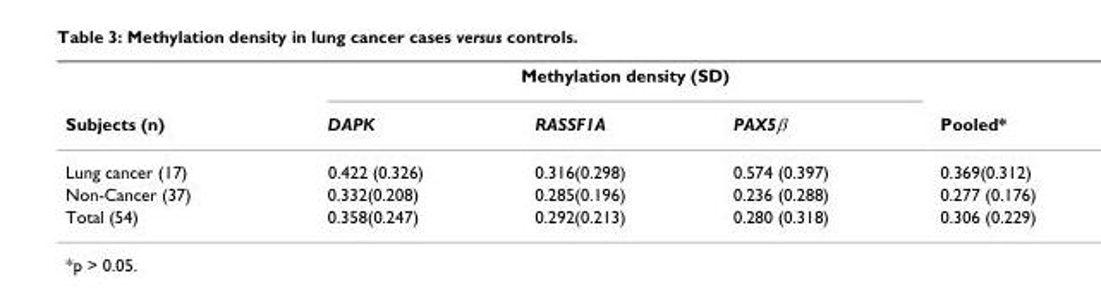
<table><thead><tr><td rowspan="2">Subjects (n)</td><td colspan="3">Methylation density (SD)</td><td rowspan="2">Pooled*</td></tr><tr><td>DAPK</td><td>RASSF1A</td><td>PAX5β</td></tr></thead><tbody><tr><td>Lung cancer (17)</td><td>0.422 (0.326)</td><td>0.316(0.298)</td><td>0.574 (0.397)</td><td>0.369(0.312)</td></tr><tr><td>Non-Cancer (37)</td><td>0.332(0.208)</td><td>0.285(0.196)</td><td>0.236 (0.288)</td><td>0.277 (0.176)</td></tr><tr><td>Total (54)</td><td>0.358(0.247)</td><td>0.292(0.213)</td><td>0.280 (0.318)</td><td>0.306 (0.229)</td></tr></tbody></table>